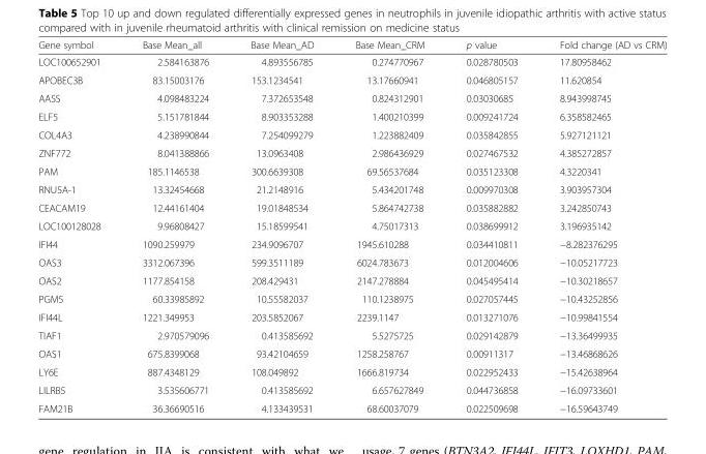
<table><thead><tr><td>Gene symbol</td><td>Base Mean_all</td><td>Base Mean_AD</td><td>Base Mean_CRM</td><td>p value</td><td>Fold change (AD vs CRM)</td></tr></thead><tbody><tr><td>LOC100652901</td><td>2.584163876</td><td>4.893556785</td><td>0.274770967</td><td>0.028780503</td><td>17.80958462</td></tr><tr><td>APOBEC3B</td><td>83.15003176</td><td>153.1234541</td><td>13.17660941</td><td>0.046805157</td><td>11.620854</td></tr><tr><td>AASS</td><td>4.098483224</td><td>7.372653548</td><td>0.824312901</td><td>0.03030685</td><td>8.943998745</td></tr><tr><td>ELF5</td><td>5.151781844</td><td>8.903353288</td><td>1.400210399</td><td>0.009241724</td><td>6.358582465</td></tr><tr><td>COL4A3</td><td>4.238990844</td><td>7.254099279</td><td>1.223882409</td><td>0.035842855</td><td>5.927121121</td></tr><tr><td>ZNF772</td><td>8.041388866</td><td>13.0963408</td><td>2.986436929</td><td>0.027467532</td><td>4.385272857</td></tr><tr><td>PAM</td><td>185.1146538</td><td>300.6639308</td><td>69.56537684</td><td>0.035123308</td><td>4.3220341</td></tr><tr><td>RNU5A-1</td><td>13.32454668</td><td>21.2148916</td><td>5.434201748</td><td>0.009970308</td><td>3.903957304</td></tr><tr><td>CEACAM19</td><td>12.44161404</td><td>19.01848534</td><td>5.864742738</td><td>0.035882882</td><td>3.242850743</td></tr><tr><td>LOC100128028</td><td>9.96808427</td><td>15.18599541</td><td>4.75017313</td><td>0.038699912</td><td>3.196935142</td></tr><tr><td>IFI44</td><td>1090.259979</td><td>234.9096707</td><td>1945.610288</td><td>0.034410811</td><td>−8.282376295</td></tr><tr><td>OAS3</td><td>3312.067396</td><td>599.3511189</td><td>6024.783673</td><td>0.012004606</td><td>−10.05217723</td></tr><tr><td>OAS2</td><td>1177.854158</td><td>208.429431</td><td>2147.278884</td><td>0.045495414</td><td>−10.30218657</td></tr><tr><td>PGM5</td><td>60.33985892</td><td>10.55582037</td><td>110.1238975</td><td>0.027057445</td><td>−10.43252856</td></tr><tr><td>IFI44L</td><td>1221.349953</td><td>203.5852067</td><td>2239.1147</td><td>0.013271076</td><td>−10.99841554</td></tr><tr><td>TIAF1</td><td>2.970579096</td><td>0.413585692</td><td>5.5275725</td><td>0.029142879</td><td>−13.36499935</td></tr><tr><td>OAS1</td><td>675.8399068</td><td>93.42104659</td><td>1258.258767</td><td>0.00911317</td><td>−13.46868626</td></tr><tr><td>LY6E</td><td>887.4348129</td><td>108.049892</td><td>1666.819734</td><td>0.022952433</td><td>−15.42638964</td></tr><tr><td>LILRB5</td><td>3.535606771</td><td>0.413585692</td><td>6.657627849</td><td>0.044736858</td><td>−16.09733601</td></tr><tr><td>FAM21B</td><td>36.36690516</td><td>4.133439531</td><td>68.60037079</td><td>0.022509698</td><td>−16.59643749</td></tr></tbody></table>